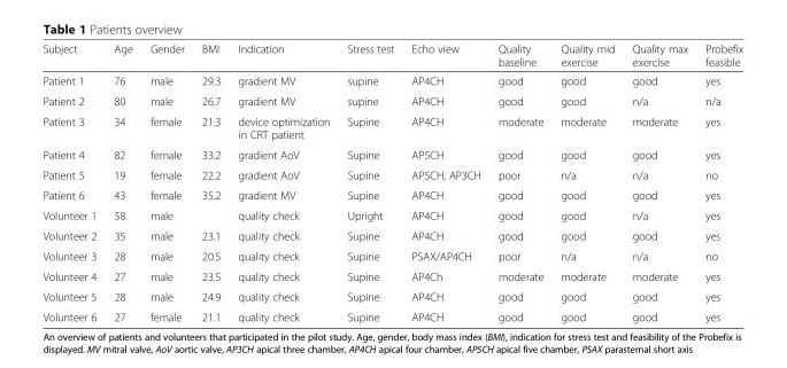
<table><thead><tr><td>Subject</td><td>Age</td><td>Gender</td><td>BMI</td><td>Indication</td><td>Stress test</td><td>Echo view</td><td>Quality baseline</td><td>Quality mid exercise</td><td>Quality max exercise</td><td>Probefix feasible</td></tr></thead><tbody><tr><td>Patient 1</td><td>76</td><td>male</td><td>29.3</td><td>gradient MV</td><td>supine</td><td>AP4CH</td><td>good</td><td>good</td><td>good</td><td>yes</td></tr><tr><td>Patient 2</td><td>80</td><td>male</td><td>26.7</td><td>gradient MV</td><td>supine</td><td>AP4CH</td><td>good</td><td>good</td><td>n/a</td><td>n/a</td></tr><tr><td>Patient 3</td><td>34</td><td>female</td><td>21.3</td><td>device optimization in CRT patient</td><td>Supine</td><td>AP4CH</td><td>moderate</td><td>moderate</td><td>moderate</td><td>yes</td></tr><tr><td>Patient 4</td><td>82</td><td>female</td><td>33.2</td><td>gradient AoV</td><td>Supine</td><td>AP5CH</td><td>good</td><td>good</td><td>good</td><td>yes</td></tr><tr><td>Patient 5</td><td>19</td><td>female</td><td>22.2</td><td>gradient AoV</td><td>Supine</td><td>AP5CH, AP3CH</td><td>poor</td><td>n/a</td><td>n/a</td><td>no</td></tr><tr><td>Patient 6</td><td>43</td><td>female</td><td>35.2</td><td>gradient MV</td><td>Supine</td><td>AP4CH</td><td>good</td><td>good</td><td>good</td><td>yes</td></tr><tr><td>Volunteer 1</td><td>58</td><td>male</td><td></td><td>quality check</td><td>Upright</td><td>AP4CH</td><td>good</td><td>good</td><td>n/a</td><td>yes</td></tr><tr><td>Volunteer 2</td><td>35</td><td>male</td><td>23.1</td><td>quality check</td><td>Supine</td><td>AP4CH</td><td>good</td><td>good</td><td>good</td><td>yes</td></tr><tr><td>Volunteer 3</td><td>28</td><td>male</td><td>20.5</td><td>quality check</td><td>Supine</td><td>PSAX/AP4CH</td><td>poor</td><td>n/a</td><td>n/a</td><td>no</td></tr><tr><td>Volunteer 4</td><td>27</td><td>male</td><td>23.5</td><td>quality check</td><td>Supine</td><td>AP4Ch</td><td>moderate</td><td>moderate</td><td>moderate</td><td>yes</td></tr><tr><td>Volunteer 5</td><td>28</td><td>male</td><td>24.9</td><td>quality check</td><td>Supine</td><td>AP4CH</td><td>good</td><td>good</td><td>good</td><td>yes</td></tr><tr><td>Volunteer 6</td><td>27</td><td>female</td><td>21.1</td><td>quality check</td><td>Supine</td><td>AP4CH</td><td>good</td><td>good</td><td>good</td><td>yes</td></tr></tbody></table>